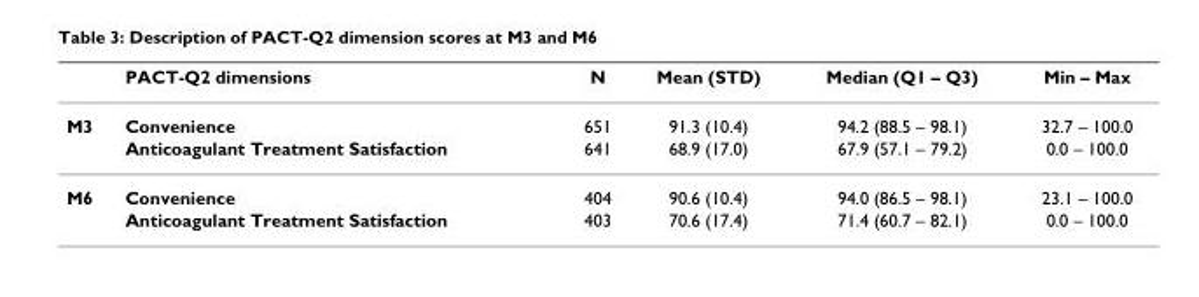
<table><thead><tr><td></td><td>PACT-Q2 dimensions</td><td>N</td><td>Mean (STD)</td><td>Median (Q1 – Q3)</td><td>Min – Max</td></tr></thead><tbody><tr><td rowspan="2">M3</td><td>Convenience</td><td>651</td><td>91.3 (10.4)</td><td>94.2 (88.5 – 98.1)</td><td>32.7 – 100.0</td></tr><tr><td>Anticoagulant Treatment Satisfaction</td><td>641</td><td>68.9 (17.0)</td><td>67.9 (57.1 – 79.2)</td><td>0.0 – 100.0</td></tr><tr><td rowspan="2">M6</td><td>Convenience</td><td>404</td><td>90.6 (10.4)</td><td>94.0 (86.5 – 98.1)</td><td>23.1 – 100.0</td></tr><tr><td>Anticoagulant Treatment Satisfaction</td><td>403</td><td>70.6 (17.4)</td><td>71.4 (60.7 – 82.1)</td><td>0.0 – 100.0</td></tr></tbody></table>